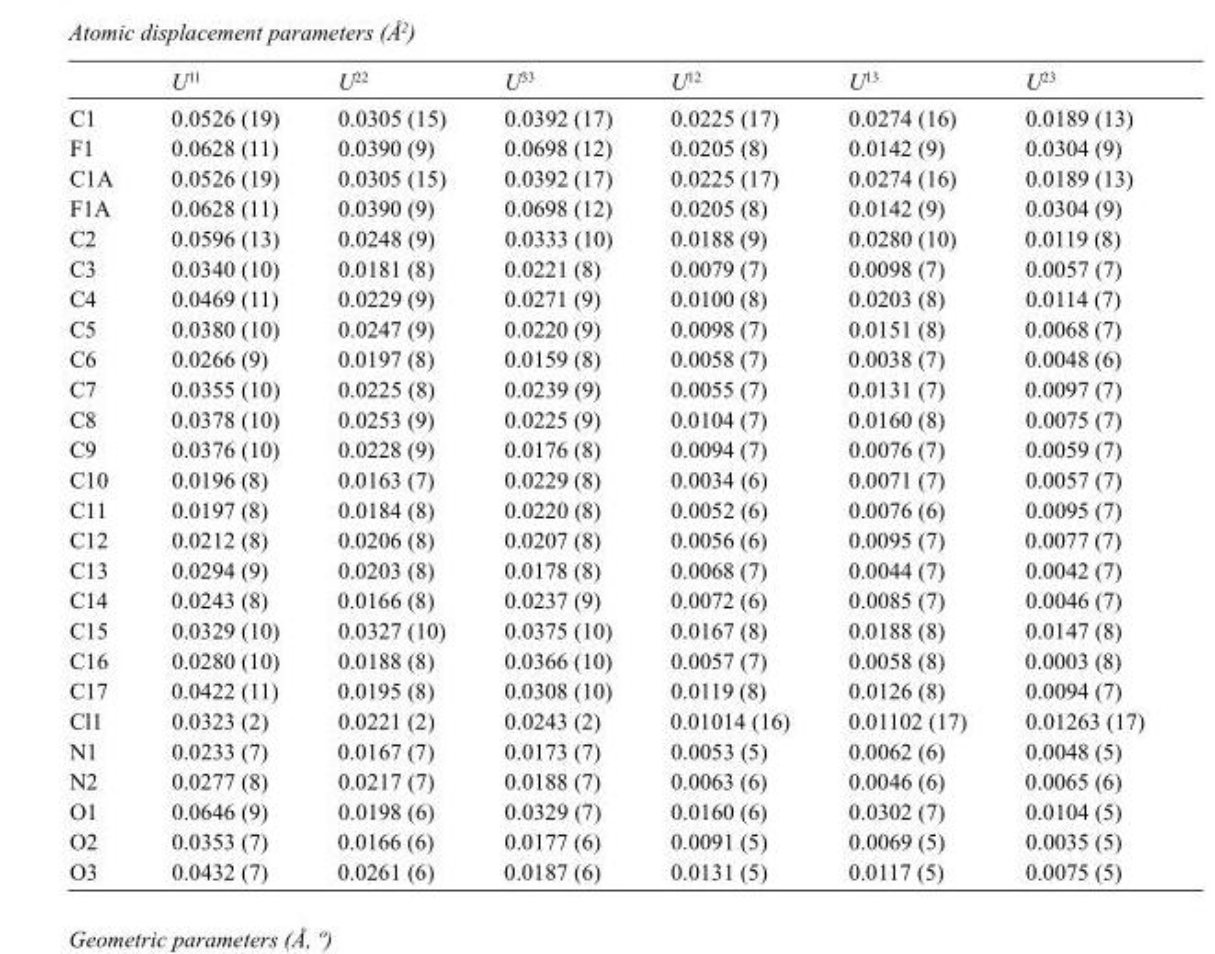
<table><thead><tr><td></td><td>U<sup>11</sup></td><td>U<sup>22</sup></td><td>U<sup>33</sup></td><td>U<sup>12</sup></td><td>U<sup>13</sup></td><td>U<sup>23</sup></td></tr></thead><tbody><tr><td>C1</td><td>0.0526 (19)</td><td>0.0305 (15)</td><td>0.0392 (17)</td><td>0.0225 (17)</td><td>0.0274 (16)</td><td>0.0189 (13)</td></tr><tr><td>F1</td><td>0.0628 (11)</td><td>0.0390 (9)</td><td>0.0698 (12)</td><td>0.0205 (8)</td><td>0.0142 (9)</td><td>0.0304 (9)</td></tr><tr><td>C1A</td><td>0.0526 (19)</td><td>0.0305 (15)</td><td>0.0392 (17)</td><td>0.0225 (17)</td><td>0.0274 (16)</td><td>0.0189 (13)</td></tr><tr><td>F1A</td><td>0.0628 (11)</td><td>0.0390 (9)</td><td>0.0698 (12)</td><td>0.0205 (8)</td><td>0.0142 (9)</td><td>0.0304 (9)</td></tr><tr><td>C2</td><td>0.0596 (13)</td><td>0.0248 (9)</td><td>0.0333 (10)</td><td>0.0188 (9)</td><td>0.0280 (10)</td><td>0.0119 (8)</td></tr><tr><td>C3</td><td>0.0340 (10)</td><td>0.0181 (8)</td><td>0.0221 (8)</td><td>0.0079 (7)</td><td>0.0098 (7)</td><td>0.0057 (7)</td></tr><tr><td>C4</td><td>0.0469 (11)</td><td>0.0229 (9)</td><td>0.0271 (9)</td><td>0.0100 (8)</td><td>0.0203 (8)</td><td>0.0114 (7)</td></tr><tr><td>C5</td><td>0.0380 (10)</td><td>0.0247 (9)</td><td>0.0220 (9)</td><td>0.0098 (7)</td><td>0.0151 (8)</td><td>0.0068 (7)</td></tr><tr><td>C6</td><td>0.0266 (9)</td><td>0.0197 (8)</td><td>0.0159 (8)</td><td>0.0058 (7)</td><td>0.0038 (7)</td><td>0.0048 (6)</td></tr><tr><td>C7</td><td>0.0355 (10)</td><td>0.0225 (8)</td><td>0.0239 (9)</td><td>0.0055 (7)</td><td>0.0131 (7)</td><td>0.0097 (7)</td></tr><tr><td>C8</td><td>0.0378 (10)</td><td>0.0253 (9)</td><td>0.0225 (9)</td><td>0.0104 (7)</td><td>0.0160 (8)</td><td>0.0075 (7)</td></tr><tr><td>C9</td><td>0.0376 (10)</td><td>0.0228 (9)</td><td>0.0176 (8)</td><td>0.0094 (7)</td><td>0.0076 (7)</td><td>0.0059 (7)</td></tr><tr><td>C10</td><td>0.0196 (8)</td><td>0.0163 (7)</td><td>0.0229 (8)</td><td>0.0034 (6)</td><td>0.0071 (7)</td><td>0.0057 (7)</td></tr><tr><td>C11</td><td>0.0197 (8)</td><td>0.0184 (8)</td><td>0.0220 (8)</td><td>0.0052 (6)</td><td>0.0076 (6)</td><td>0.0095 (7)</td></tr><tr><td>C12</td><td>0.0212 (8)</td><td>0.0206 (8)</td><td>0.0207 (8)</td><td>0.0056 (6)</td><td>0.0095 (7)</td><td>0.0077 (7)</td></tr><tr><td>C13</td><td>0.0294 (9)</td><td>0.0203 (8)</td><td>0.0178 (8)</td><td>0.0068 (7)</td><td>0.0044 (7)</td><td>0.0042 (7)</td></tr><tr><td>C14</td><td>0.0243 (8)</td><td>0.0166 (8)</td><td>0.0237 (9)</td><td>0.0072 (6)</td><td>0.0085 (7)</td><td>0.0046 (7)</td></tr><tr><td>C15</td><td>0.0329 (10)</td><td>0.0327 (10)</td><td>0.0375 (10)</td><td>0.0167 (8)</td><td>0.0188 (8)</td><td>0.0147 (8)</td></tr><tr><td>C16</td><td>0.0280 (10)</td><td>0.0188 (8)</td><td>0.0366 (10)</td><td>0.0057 (7)</td><td>0.0058 (8)</td><td>0.0003 (8)</td></tr><tr><td>C17</td><td>0.0422 (11)</td><td>0.0195 (8)</td><td>0.0308 (10)</td><td>0.0119 (8)</td><td>0.0126 (8)</td><td>0.0094 (7)</td></tr><tr><td>Cl1</td><td>0.0323 (2)</td><td>0.0221 (2)</td><td>0.0243 (2)</td><td>0.01014 (16)</td><td>0.01102 (17)</td><td>0.01263 (17)</td></tr><tr><td>N1</td><td>0.0233 (7)</td><td>0.0167 (7)</td><td>0.0173 (7)</td><td>0.0053 (5)</td><td>0.0062 (6)</td><td>0.0048 (5)</td></tr><tr><td>N2</td><td>0.0277 (8)</td><td>0.0217 (7)</td><td>0.0188 (7)</td><td>0.0063 (6)</td><td>0.0046 (6)</td><td>0.0065 (6)</td></tr><tr><td>O1</td><td>0.0646 (9)</td><td>0.0198 (6)</td><td>0.0329 (7)</td><td>0.0160 (6)</td><td>0.0302 (7)</td><td>0.0104 (5)</td></tr><tr><td>O2</td><td>0.0353 (7)</td><td>0.0166 (6)</td><td>0.0177 (6)</td><td>0.0091 (5)</td><td>0.0069 (5)</td><td>0.0035 (5)</td></tr><tr><td>O3</td><td>0.0432 (7)</td><td>0.0261 (6)</td><td>0.0187 (6)</td><td>0.0131 (5)</td><td>0.0117 (5)</td><td>0.0075 (5)</td></tr></tbody></table>